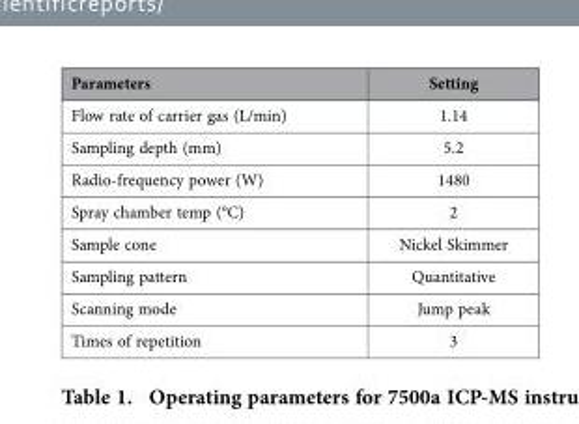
<table><thead><tr><td>Parameters</td><td>Setting</td></tr></thead><tbody><tr><td>Flow rate of carrier gas (L/min)</td><td>1.14</td></tr><tr><td>Sampling depth (mm)</td><td>5.2</td></tr><tr><td>Radio-frequency power (W)</td><td>1480</td></tr><tr><td>Spray chamber temp (°C)</td><td>2</td></tr><tr><td>Sample cone</td><td>Nickel Skimmer</td></tr><tr><td>Sampling pattern</td><td>Quantitative</td></tr><tr><td>Scanning mode</td><td>Jump peak</td></tr><tr><td>Times of repetition</td><td>3</td></tr></tbody></table>